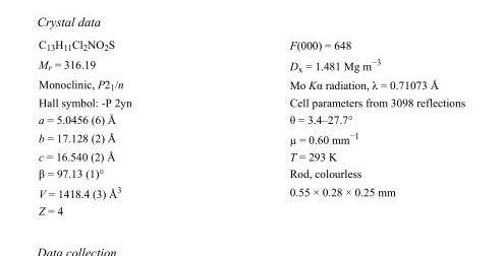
<table><tbody><tr><td>C<sub>13</sub>H<sub>11</sub>Cl<sub>2</sub>NO<sub>2</sub>S</td><td>F(000) = 648</td></tr><tr><td>M<sub>r</sub> = 316.19</td><td>D<sub>x</sub> = 1.481 Mg m<sup>−3</sup></td></tr><tr><td>Monoclinic, P2<sub>1</sub>/n</td><td>Mo Kα radiation, λ = 0.71073 Å</td></tr><tr><td>Hall symbol: -P 2yn</td><td>Cell parameters from 3098 reflections</td></tr><tr><td>a = 5.0456 (6) Å</td><td>θ = 3.4–27.7°</td></tr><tr><td>b = 17.128 (2) Å</td><td>µ = 0.60 mm<sup>−1</sup></td></tr><tr><td>c = 16.540 (2) Å</td><td>T = 293 K</td></tr><tr><td>β = 97.13 (1)°</td><td>Rod, colourless</td></tr><tr><td>V = 1418.4 (3) Å<sup>3</sup></td><td>0.55 × 0.28 × 0.25 mm</td></tr><tr><td>Z = 4</td><td></td></tr></tbody></table>